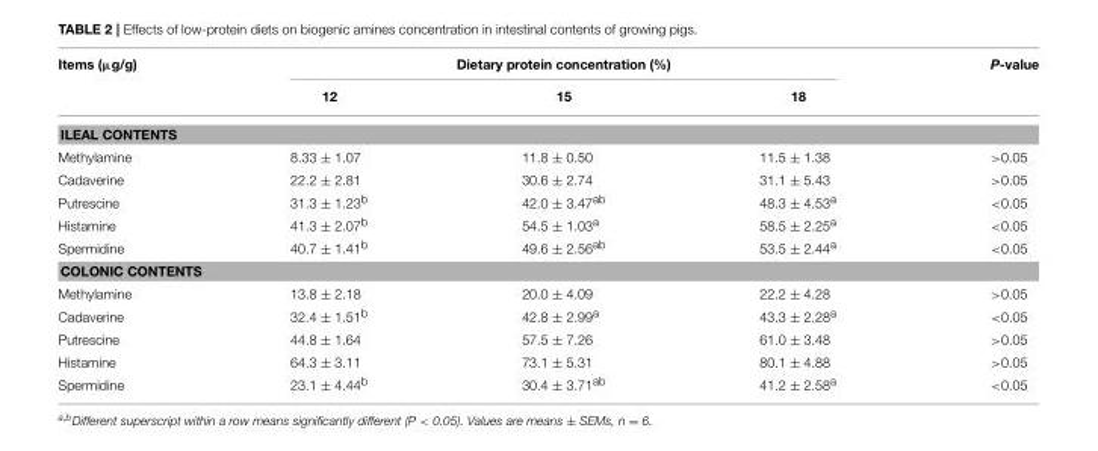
<table><thead><tr><td rowspan="2">Items (µg/g)</td><td colspan="3">Dietary protein concentration (%)</td><td rowspan="2">P-value</td></tr><tr><td>12</td><td>15</td><td>18</td></tr></thead><tbody><tr><td colspan="5">ILEAL CONTENTS</td></tr><tr><td>Methylamine</td><td>8.33 ± 1.07</td><td>11.8 ± 0.50</td><td>11.5 ± 1.38</td><td>&gt;0.05</td></tr><tr><td>Cadaverine</td><td>22.2 ± 2.81</td><td>30.6 ± 2.74</td><td>31.1 ± 5.43</td><td>&gt;0.05</td></tr><tr><td>Putrescine</td><td>31.3 ± 1.23<sup>b</sup></td><td>42.0 ± 3.47<sup>ab</sup></td><td>48.3 ± 4.53<sup>a</sup></td><td>&lt;0.05</td></tr><tr><td>Histamine</td><td>41.3 ± 2.07<sup>b</sup></td><td>54.5 ± 1.03<sup>a</sup></td><td>58.5 ± 2.25<sup>a</sup></td><td>&lt;0.05</td></tr><tr><td>Spermidine</td><td>40.7 ± 1.41<sup>b</sup></td><td>49.6 ± 2.56<sup>ab</sup></td><td>53.5 ± 2.44<sup>a</sup></td><td>&lt;0.05</td></tr><tr><td colspan="5">COLONIC CONTENTS</td></tr><tr><td>Methylamine</td><td>13.8 ± 2.18</td><td>20.0 ± 4.09</td><td>22.2 ± 4.28</td><td>&gt;0.05</td></tr><tr><td>Cadaverine</td><td>32.4 ± 1.51<sup>b</sup></td><td>42.8 ± 2.99<sup>a</sup></td><td>43.3 ± 2.28<sup>a</sup></td><td>&lt;0.05</td></tr><tr><td>Putrescine</td><td>44.8 ± 1.64</td><td>57.5 ± 7.26</td><td>61.0 ± 3.48</td><td>&gt;0.05</td></tr><tr><td>Histamine</td><td>64.3 ± 3.11</td><td>73.1 ± 5.31</td><td>80.1 ± 4.88</td><td>&gt;0.05</td></tr><tr><td>Spermidine</td><td>23.1 ± 4.44<sup>b</sup></td><td>30.4 ± 3.71<sup>ab</sup></td><td>41.2 ± 2.58<sup>a</sup></td><td>&lt;0.05</td></tr></tbody></table>